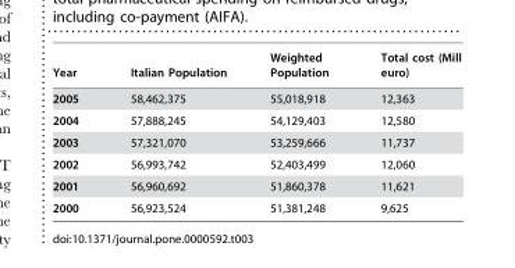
<table><thead><tr><td>Year</td><td>Italian Population</td><td>Weighted Population</td><td>Total cost (Mill euro)</td></tr></thead><tbody><tr><td>2005</td><td>58,462,375</td><td>55,018,918</td><td>12,363</td></tr><tr><td>2004</td><td>57,888,245</td><td>54,129,403</td><td>12,580</td></tr><tr><td>2003</td><td>57,321,070</td><td>53,259,666</td><td>11,737</td></tr><tr><td>2002</td><td>56,993,742</td><td>52,403,499</td><td>12,060</td></tr><tr><td>2001</td><td>56,960,692</td><td>51,860,378</td><td>11,621</td></tr><tr><td>2000</td><td>56,923,524</td><td>51,381,248</td><td>9,625</td></tr></tbody></table>